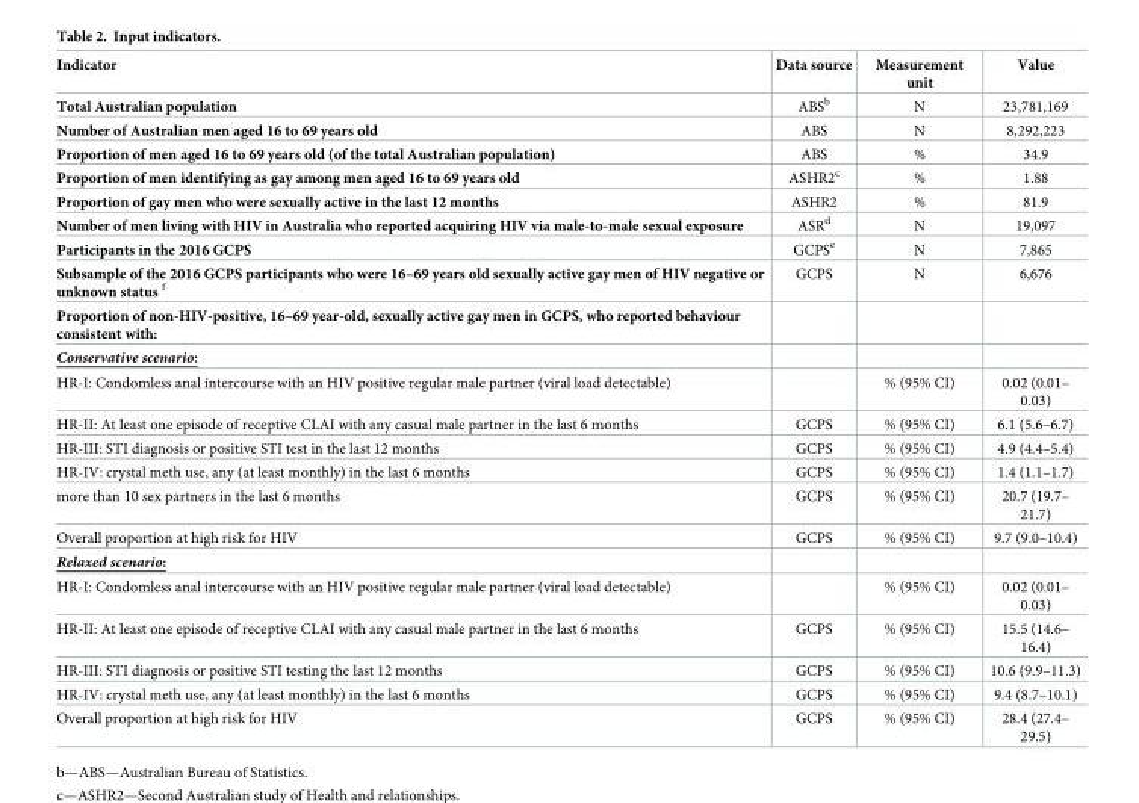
<table><thead><tr><td>Indicator</td><td>Data source</td><td>Measurement unit</td><td>Value</td></tr></thead><tbody><tr><td>Total Australian population</td><td>ABS<sup>b</sup></td><td>N</td><td>23,781,169</td></tr><tr><td>Number of Australian men aged 16 to 69 years old</td><td>ABS</td><td>N</td><td>8,292,223</td></tr><tr><td>Proportion of men aged 16 to 69 years old (of the total Australian population)</td><td>ABS</td><td>%</td><td>34.9</td></tr><tr><td>Proportion of men identifying as gay among men aged 16 to 69 years old</td><td>ASHR2<sup>c</sup></td><td>%</td><td>1.88</td></tr><tr><td>Proportion of gay men who were sexually active in the last 12 months</td><td>ASHR2</td><td>%</td><td>81.9</td></tr><tr><td>Number of men living with HIV in Australia who reported acquiring HIV via male-to-male sexual exposure</td><td>ASR<sup>d</sup></td><td>N</td><td>19,097</td></tr><tr><td>Participants in the 2016 GCPS</td><td>GCPS<sup>e</sup></td><td>N</td><td>7,865</td></tr><tr><td>Subsample of the 2016 GCPS participants who were 16–69 years old sexually active gay men of HIV negative or unknown status <sup>f</sup></td><td>GCPS</td><td>N</td><td>6,676</td></tr><tr><td colspan="4">Proportion of non-HIV-positive, 16–69 year-old, sexually active gay men in GCPS, who reported behaviour consistent with:</td></tr><tr><td colspan="4">Conservative scenario:</td></tr><tr><td>HR-I: Condomless anal intercourse with an HIV positive regular male partner (viral load detectable)</td><td></td><td>% (95% CI)</td><td>0.02 (0.01– 0.03)</td></tr><tr><td>HR-II: At least one episode of receptive CLAI with any casual male partner in the last 6 months</td><td>GCPS</td><td>% (95% CI)</td><td>6.1 (5.6–6.7)</td></tr><tr><td>HR-III: STI diagnosis or positive STI test in the last 12 months</td><td>GCPS</td><td>% (95% CI)</td><td>4.9 (4.4–5.4)</td></tr><tr><td>HR-IV: crystal meth use, any (at least monthly) in the last 6 months</td><td>GCPS</td><td>% (95% CI)</td><td>1.4 (1.1–1.7)</td></tr><tr><td>more than 10 sex partners in the last 6 months</td><td>GCPS</td><td>% (95% CI)</td><td>20.7 (19.7– 21.7)</td></tr><tr><td>Overall proportion at high risk for HIV</td><td>GCPS</td><td>% (95% CI)</td><td>9.7 (9.0–10.4)</td></tr><tr><td colspan="4">Relaxed scenario:</td></tr><tr><td>HR-I: Condomless anal intercourse with an HIV positive regular male partner (viral load detectable)</td><td></td><td>% (95% CI)</td><td>0.02 (0.01– 0.03)</td></tr><tr><td>HR-II: At least one episode of receptive CLAI with any casual male partner in the last 6 months</td><td>GCPS</td><td>% (95% CI)</td><td>15.5 (14.6– 16.4)</td></tr><tr><td>HR-III: STI diagnosis or positive STI testing the last 12 months</td><td>GCPS</td><td>% (95% CI)</td><td>10.6 (9.9–11.3)</td></tr><tr><td>HR-IV: crystal meth use, any (at least monthly) in the last 6 months</td><td>GCPS</td><td>% (95% CI)</td><td>9.4 (8.7–10.1)</td></tr><tr><td>Overall proportion at high risk for HIV</td><td>GCPS</td><td>% (95% CI)</td><td>28.4 (27.4– 29.5)</td></tr></tbody></table>